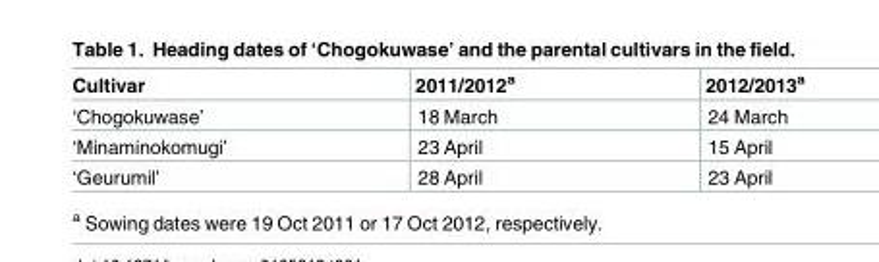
<table><thead><tr><td>Cultivar</td><td>2011/2012<sup>a</sup></td><td>2012/2013<sup>a</sup></td></tr></thead><tbody><tr><td>‘Chogokuwase’</td><td>18 March</td><td>24 March</td></tr><tr><td>‘Minaminokomugi’</td><td>23 April</td><td>15 April</td></tr><tr><td>‘Geurumil’</td><td>28 April</td><td>23 April</td></tr></tbody></table>